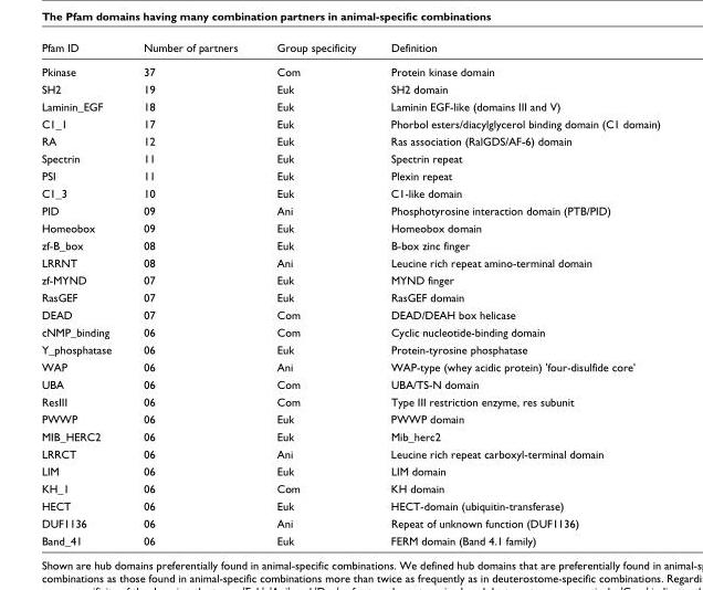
<table><thead><tr><td>Pfam ID</td><td>Number of partners</td><td>Group specificity</td><td>Definition</td></tr></thead><tbody><tr><td>Pkinase</td><td>37</td><td>Com</td><td>Protein kinase domain</td></tr><tr><td>SH2</td><td>19</td><td>Euk</td><td>SH2 domain</td></tr><tr><td>Laminin_EGF</td><td>18</td><td>Euk</td><td>Laminin EGF-like (domains III and V)</td></tr><tr><td>C1_1</td><td>17</td><td>Euk</td><td>Phorbol esters/diacylglycerol binding domain (C1 domain)</td></tr><tr><td>RA</td><td>12</td><td>Euk</td><td>Ras association (RalGDS/AF-6) domain</td></tr><tr><td>Spectrin</td><td>11</td><td>Euk</td><td>Spectrin repeat</td></tr><tr><td>PSI</td><td>11</td><td>Euk</td><td>Plexin repeat</td></tr><tr><td>C1_3</td><td>10</td><td>Euk</td><td>C1-like domain</td></tr><tr><td>PID</td><td>09</td><td>Ani</td><td>Phosphotyrosine interaction domain (PTB/PID)</td></tr><tr><td>Homeobox</td><td>09</td><td>Euk</td><td>Homeobox domain</td></tr><tr><td>zf-B_box</td><td>08</td><td>Euk</td><td>B-box zinc finger</td></tr><tr><td>LRRNT</td><td>08</td><td>Ani</td><td>Leucine rich repeat amino-terminal domain</td></tr><tr><td>zf-MYND</td><td>07</td><td>Euk</td><td>MYND finger</td></tr><tr><td>RasGEF</td><td>07</td><td>Euk</td><td>RasGEF domain</td></tr><tr><td>DEAD</td><td>07</td><td>Com</td><td>DEAD/DEAH box helicase</td></tr><tr><td>cNMP_binding</td><td>06</td><td>Com</td><td>Cyclic nucleotide-binding domain</td></tr><tr><td>Y_phosphatase</td><td>06</td><td>Euk</td><td>Protein-tyrosine phosphatase</td></tr><tr><td>WAP</td><td>06</td><td>Ani</td><td>WAP-type (whey acidic protein) &#x27;four-disulfide core&#x27;</td></tr><tr><td>UBA</td><td>06</td><td>Com</td><td>UBA/TS-N domain</td></tr><tr><td>ResIII</td><td>06</td><td>Com</td><td>Type III restriction enzyme, res subunit</td></tr><tr><td>PWWP</td><td>06</td><td>Euk</td><td>PWWP domain</td></tr><tr><td>MIB_HERC2</td><td>06</td><td>Euk</td><td>Mib_herc2</td></tr><tr><td>LRRCT</td><td>06</td><td>Ani</td><td>Leucine rich repeat carboxyl-terminal domain</td></tr><tr><td>LIM</td><td>06</td><td>Euk</td><td>LIM domain</td></tr><tr><td>KH_1</td><td>06</td><td>Com</td><td>KH domain</td></tr><tr><td>HECT</td><td>06</td><td>Euk</td><td>HECT-domain (ubiquitin-transferase)</td></tr><tr><td>DUF1136</td><td>06</td><td>Ani</td><td>Repeat of unknown function (DUF1136)</td></tr><tr><td>Band_41</td><td>06</td><td>Euk</td><td>FERM domain (Band 4.1 family)</td></tr></tbody></table>